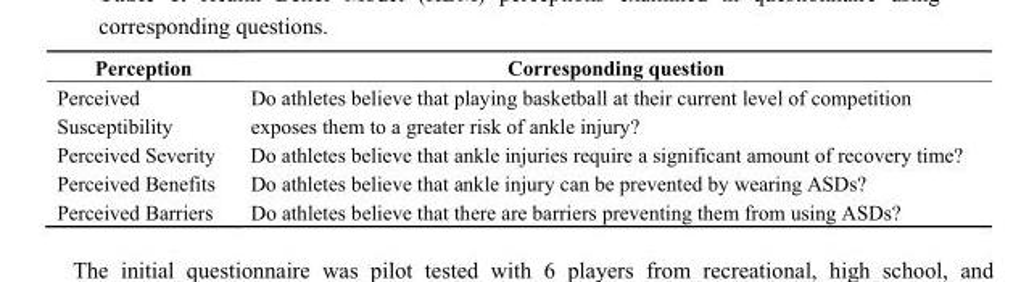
<table><thead><tr><td>Perception</td><td>Corresponding question</td></tr></thead><tbody><tr><td>Perceived Susceptibility</td><td>Do athletes believe that playing basketball at their current level of competition exposes them to a greater risk of ankle injury?</td></tr><tr><td>Perceived Severity</td><td>Do athletes believe that ankle injuries require a significant amount of recovery time?</td></tr><tr><td>Perceived Benefits</td><td>Do athletes believe that ankle injury can be prevented by wearing ASDs?</td></tr><tr><td>Perceived Barriers</td><td>Do athletes believe that there are barriers preventing them from using ASDs?</td></tr></tbody></table>